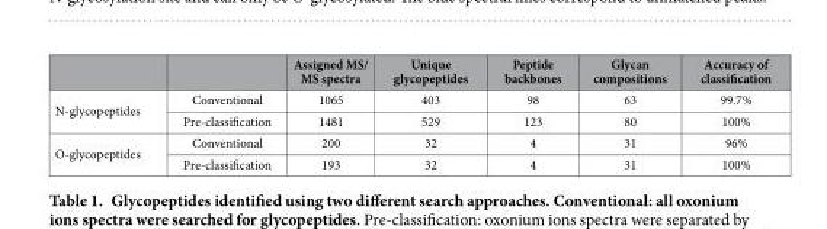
<table><thead><tr><td></td><td></td><td>Assigned MS/ MS spectra</td><td>Unique glycopeptides</td><td>Peptide backbones</td><td>Glycan compositions</td><td>Accuracy of classification</td></tr></thead><tbody><tr><td rowspan="2">N-glycopeptides</td><td>Conventional</td><td>1065</td><td>403</td><td>98</td><td>63</td><td>99.7%</td></tr><tr><td>Pre-classification</td><td>1481</td><td>529</td><td>123</td><td>80</td><td>100%</td></tr><tr><td rowspan="2">O-glycopeptides</td><td>Conventional</td><td>200</td><td>32</td><td>4</td><td>31</td><td>96%</td></tr><tr><td>Pre-classification</td><td>193</td><td>32</td><td>4</td><td>31</td><td>100%</td></tr></tbody></table>